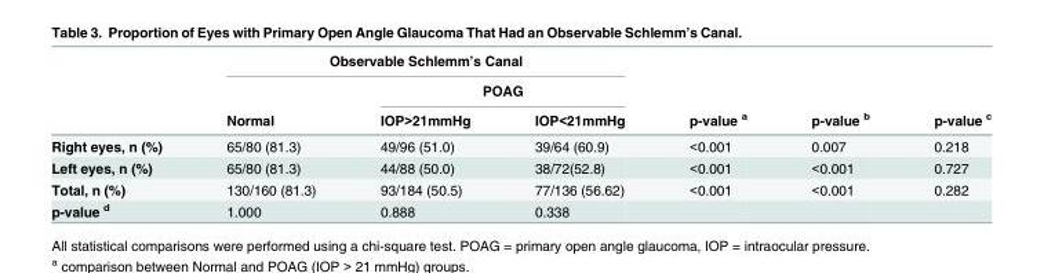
<table><thead><tr><td rowspan="3"></td><td colspan="3">Observable Schlemm’s Canal</td><td rowspan="3">p-value <sup>a</sup></td><td rowspan="3">p-value <sup>b</sup></td><td rowspan="3">p-value <sup>c</sup></td></tr><tr><td rowspan="2">Normal</td><td colspan="2">POAG</td></tr><tr><td>IOP&gt;21mmHg</td><td>IOP&lt;21mmHg</td></tr></thead><tbody><tr><td>Right eyes, n (%)</td><td>65/80 (81.3)</td><td>49/96 (51.0)</td><td>39/64 (60.9)</td><td>&lt;0.001</td><td>0.007</td><td>0.218</td></tr><tr><td>Left eyes, n (%)</td><td>65/80 (81.3)</td><td>44/88 (50.0)</td><td>38/72(52.8)</td><td>&lt;0.001</td><td>&lt;0.001</td><td>0.727</td></tr><tr><td>Total, n (%)</td><td>130/160 (81.3)</td><td>93/184 (50.5)</td><td>77/136 (56.62)</td><td>&lt;0.001</td><td>&lt;0.001</td><td>0.282</td></tr><tr><td>p-value <sup>d</sup></td><td>1.000</td><td>0.888</td><td>0.338</td><td></td><td></td><td></td></tr></tbody></table>